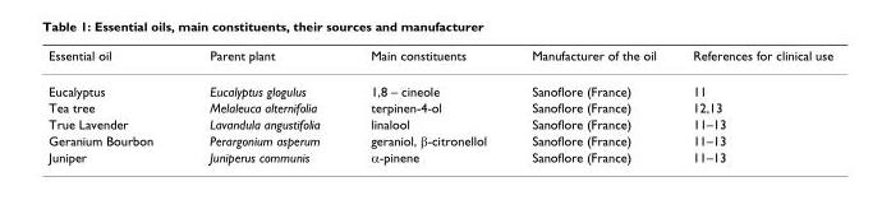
<table><thead><tr><td>Essential oil</td><td>Parent plant</td><td>Main constituents</td><td>Manufacturer of the oil</td><td>References for clinical use</td></tr></thead><tbody><tr><td>Eucalyptus</td><td>Eucalyptus glogulus</td><td>1,8 – cineole</td><td>Sanoflore (France)</td><td>11</td></tr><tr><td>Tea tree</td><td>Melaleuca alternifolia</td><td>terpinen-4-ol</td><td>Sanoflore (France)</td><td>12,13</td></tr><tr><td>True Lavender</td><td>Lavandula angustifolia</td><td>linalool</td><td>Sanoflore (France)</td><td>11–13</td></tr><tr><td>Geranium Bourbon</td><td>Perargonium asperum</td><td>geraniol, β-citronellol</td><td>Sanoflore (France)</td><td>11–13</td></tr><tr><td>Juniper</td><td>Juniperus communis</td><td>α-pinene</td><td>Sanoflore (France)</td><td>11–13</td></tr></tbody></table>